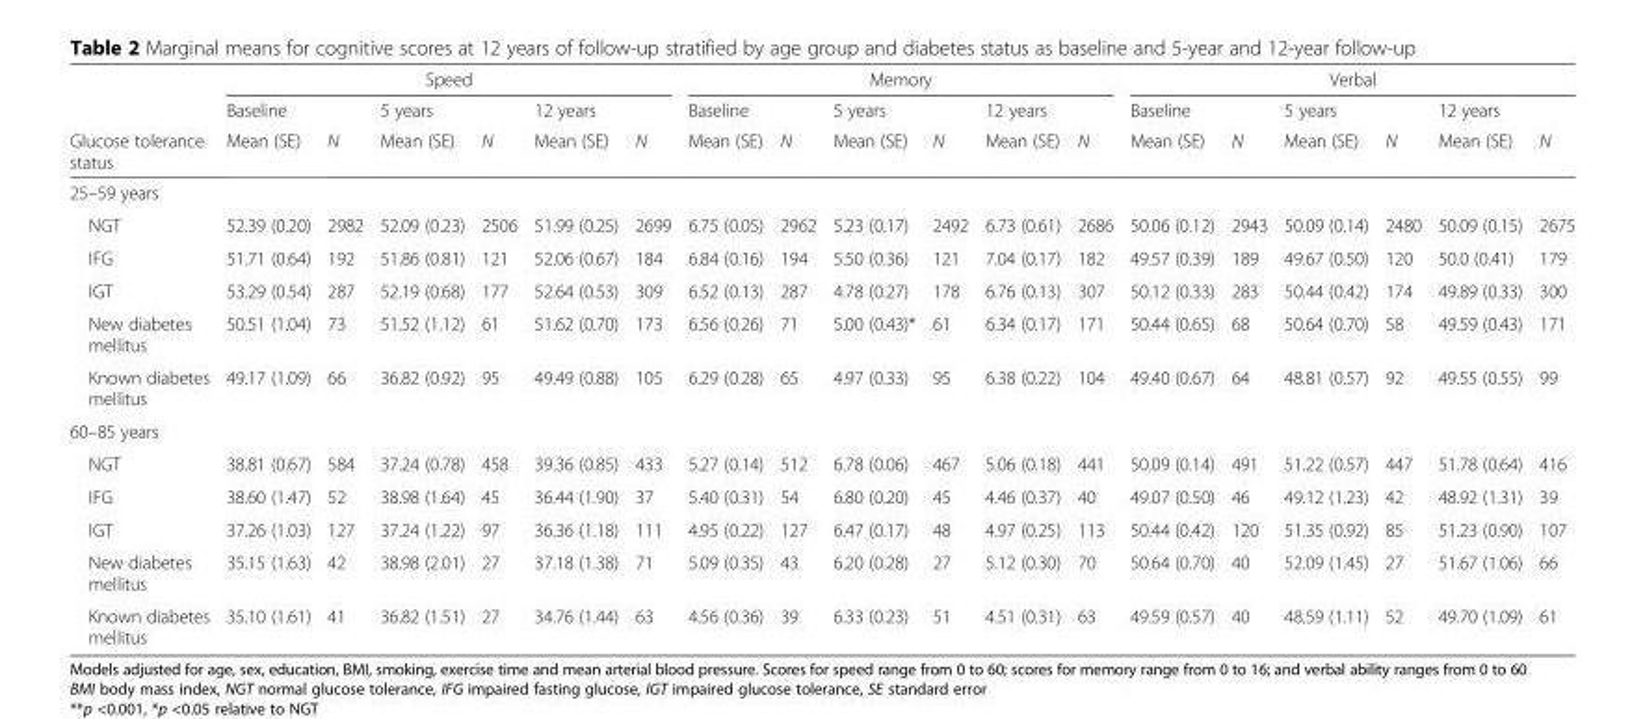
<table><thead><tr><td rowspan="3">Glucose tolerance status</td><td colspan="6">Speed</td><td colspan="6">Memory</td><td colspan="6">Verbal</td></tr><tr><td colspan="2">Baseline</td><td colspan="2">5 years</td><td colspan="2">12 years</td><td colspan="2">Baseline</td><td colspan="2">5 years</td><td colspan="2">12 years</td><td colspan="2">Baseline</td><td colspan="2">5 years</td><td colspan="2">12 years</td></tr><tr><td>Mean (SE)</td><td>N</td><td>Mean (SE)</td><td>N</td><td>Mean (SE)</td><td>N</td><td>Mean (SE)</td><td>N</td><td>Mean (SE)</td><td>N</td><td>Mean (SE)</td><td>N</td><td>Mean (SE)</td><td>N</td><td>Mean (SE)</td><td>N</td><td>Mean (SE)</td><td>N</td></tr></thead><tbody><tr><td colspan="19">25–59 years</td></tr><tr><td>NGT</td><td>52.39 (0.20)</td><td>2982</td><td>52.09 (0.23)</td><td>2506</td><td>51.99 (0.25)</td><td>2699</td><td>6.75 (0.05)</td><td>2962</td><td>5.23 (0.17)</td><td>2492</td><td>6.73 (0.61)</td><td>2686</td><td>50.06 (0.12)</td><td>2943</td><td>50.09 (0.14)</td><td>2480</td><td>50.09 (0.15)</td><td>2675</td></tr><tr><td>IFG</td><td>51.71 (0.64)</td><td>192</td><td>51.86 (0.81)</td><td>121</td><td>52.06 (0.67)</td><td>184</td><td>6.84 (0.16)</td><td>194</td><td>5.50 (0.36)</td><td>121</td><td>7.04 (0.17)</td><td>182</td><td>49.57 (0.39)</td><td>189</td><td>49.67 (0.50)</td><td>120</td><td>50.0 (0.41)</td><td>179</td></tr><tr><td>IGT</td><td>53.29 (0.54)</td><td>287</td><td>52.19 (0.68)</td><td>177</td><td>52.64 (0.53)</td><td>309</td><td>6.52 (0.13)</td><td>287</td><td>4.78 (0.27)</td><td>178</td><td>6.76 (0.13)</td><td>307</td><td>50.12 (0.33)</td><td>283</td><td>50.44 (0.42)</td><td>174</td><td>49.89 (0.33)</td><td>300</td></tr><tr><td>New diabetes mellitus</td><td>50.51 (1.04)</td><td>73</td><td>51.52 (1.12)</td><td>61</td><td>51.62 (0.70)</td><td>173</td><td>6.56 (0.26)</td><td>71</td><td>5.00 (0.43)*</td><td>61</td><td>6.34 (0.17)</td><td>171</td><td>50.44 (0.65)</td><td>68</td><td>50.64 (0.70)</td><td>58</td><td>49.59 (0.43)</td><td>171</td></tr><tr><td>Known diabetes mellitus</td><td>49.17 (1.09)</td><td>66</td><td>36.82 (0.92)</td><td>95</td><td>49.49 (0.88)</td><td>105</td><td>6.29 (0.28)</td><td>65</td><td>4.97 (0.33)</td><td>95</td><td>6.38 (0.22)</td><td>104</td><td>49.40 (0.67)</td><td>64</td><td>48.81 (0.57)</td><td>92</td><td>49.55 (0.55)</td><td>99</td></tr><tr><td colspan="19">60–85 years</td></tr><tr><td>NGT</td><td>38.81 (0.67)</td><td>584</td><td>37.24 (0.78)</td><td>458</td><td>39.36 (0.85)</td><td>433</td><td>5.27 (0.14)</td><td>512</td><td>6.78 (0.06)</td><td>467</td><td>5.06 (0.18)</td><td>441</td><td>50.09 (0.14)</td><td>491</td><td>51.22 (0.57)</td><td>447</td><td>51.78 (0.64)</td><td>416</td></tr><tr><td>IFG</td><td>38.60 (1.47)</td><td>52</td><td>38.98 (1.64)</td><td>45</td><td>36.44 (1.90)</td><td>37</td><td>5.40 (0.31)</td><td>54</td><td>6.80 (0.20)</td><td>45</td><td>4.46 (0.37)</td><td>40</td><td>49.07 (0.50)</td><td>46</td><td>49.12 (1.23)</td><td>42</td><td>48.92 (1.31)</td><td>39</td></tr><tr><td>IGT</td><td>37.26 (1.03)</td><td>127</td><td>37.24 (1.22)</td><td>97</td><td>36.36 (1.18)</td><td>111</td><td>4.95 (0.22)</td><td>127</td><td>6.47 (0.17)</td><td>48</td><td>4.97 (0.25)</td><td>113</td><td>50.44 (0.42)</td><td>120</td><td>51.35 (0.92)</td><td>85</td><td>51.23 (0.90)</td><td>107</td></tr><tr><td>New diabetes mellitus</td><td>35.15 (1.63)</td><td>42</td><td>38.98 (2.01)</td><td>27</td><td>37.18 (1.38)</td><td>71</td><td>5.09 (0.35)</td><td>43</td><td>6.20 (0.28)</td><td>27</td><td>5.12 (0.30)</td><td>70</td><td>50.64 (0.70)</td><td>40</td><td>52.09 (1.45)</td><td>27</td><td>51.67 (1.06)</td><td>66</td></tr><tr><td>Known diabetes mellitus</td><td>35.10 (1.61)</td><td>41</td><td>36.82 (1.51)</td><td>27</td><td>34.76 (1.44)</td><td>63</td><td>4.56 (0.36)</td><td>39</td><td>6.33 (0.23)</td><td>51</td><td>4.51 (0.31)</td><td>63</td><td>49.59 (0.57)</td><td>40</td><td>48.59 (1.11)</td><td>52</td><td>49.70 (1.09)</td><td>61</td></tr></tbody></table>